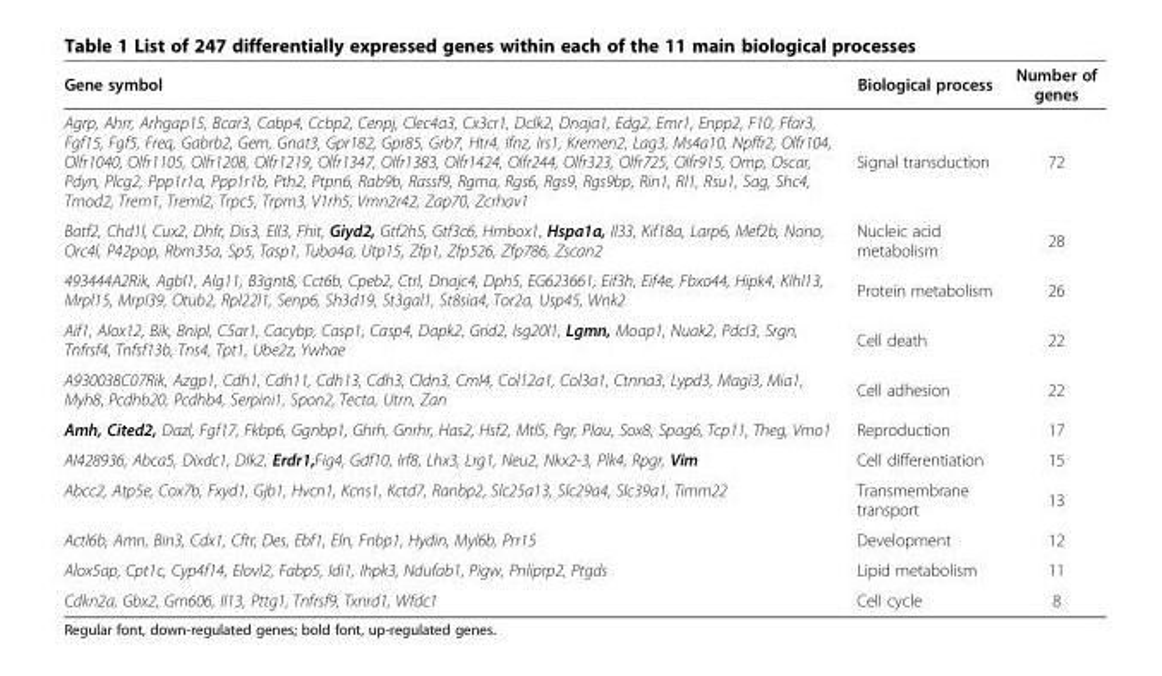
<table><thead><tr><td>Gene symbol</td><td>Biological process</td><td>Number of genes</td></tr></thead><tbody><tr><td>Agrp, Ahrr, Arhgap15, Bcar3, Cabp4, Ccbp2, Cenpj, Clec4a3, Cx3cr1, Dclk2, Dnaja1, Edg2, Emr1, Enpp2, F10, Ffar3, Fgf15, Fgf5, Freq, Gabrb2, Gem, Gnat3, Gpr182, Gpr85, Grb7, Htr4, Ifnz, Irs1, Kremen2, Lag3, Ms4a10, Npffr2, Olfr104, Olfr1040, Olfr1105, Olfr1208, Olfr1219, Olfr1347, Olfr1383, Olfr1424, Olfr244, Olfr323, Olfr725, Olfr915, Omp, Oscar, Pdyn, Plcg2, Ppp1r1a, Ppp1r1b, Pth2, Ptpn6, Rab9b, Rassf9, Rgma, Rgs6, Rgs9, Rgs9bp, Rin1, Rl1, Rsu1, Sag, Shc4, Tmod2, Trem1, Treml2, Trpc5, Trpm3, V1rh5, Vmn2r42, Zap70, Zcrhav1</td><td>Signal transduction</td><td>72</td></tr><tr><td>Batf2, Chd1l, Cux2, Dhfr, Dis3, Ell3, Fhit, Giyd2, Gtf2h5, Gtf3c6, Hmbox1, Hspa1a, Il33, Kif18a, Larp6, Mef2b, Nono, Orc4l, P42pop, Rbm35a, Sp5, Tasp1, Tuba4a, Utp15, Zfp1, Zfp526, Zfp786, Zscan2</td><td>Nucleic acid metabolism</td><td>28</td></tr><tr><td>493444A2Rik, Agbl1, Alg11, B3gnt8, Cct6b, Cpeb2, Ctrl, Dnajc4, Dph5, EG623661, Eif3h, Eif4e, Fbxo44, Hipk4, Klhl13, Mrpl15, Mrpl39, Otub2, Rpl22l1, Senp6, Sh3d19, St3gal1, St8sia4, Tor2a, Usp45, Wnk2</td><td>Protein metabolism</td><td>26</td></tr><tr><td>Aif1, Alox12, Bik, Bnipl, C5ar1, Cacybp, Casp1, Casp4, Dapk2, Grid2, Isg20l1, Lgmn, Moap1, Nuak2, Pdcl3, Srgn, Tnfrsf4, Tnfsf13b, Tns4, Tpt1, Ube2z, Ywhae</td><td>Cell death</td><td>22</td></tr><tr><td>A930038C07Rik, Azgp1, Cdh1, Cdh11, Cdh13, Cdh3, Cldn3, Cml4, Col12a1, Col3a1, Ctnna3, Lypd3, Magi3, Mia1, Myh8, Pcdhb20, Pcdhb4, Serpini1, Spon2, Tecta, Utrn, Zan</td><td>Cell adhesion</td><td>22</td></tr><tr><td>Amh, Cited2, Dazl, Fgf17, Fkbp6, Ggnbp1, Ghrh, Gnrhr, Has2, Hsf2, Mtl5, Pgr, Plau, Sox8, Spag6, Tcp11, Theg, Vmo1</td><td>Reproduction</td><td>17</td></tr><tr><td>AI428936, Abca5, Dixdc1, Dlk2, Erdr1,Fig4, Gdf10, Irf8, Lhx3, Lrg1, Neu2, Nkx2-3, Plk4, Rpgr, Vim</td><td>Cell differentiation</td><td>15</td></tr><tr><td>Abcc2, Atp5e, Cox7b, Fxyd1, Gjb1, Hvcn1, Kcns1, Kctd7, Ranbp2, Slc25a13, Slc29a4, Slc39a1, Timm22</td><td>Transmembrane transport</td><td>13</td></tr><tr><td>Actl6b, Amn, Bin3, Cdx1, Cftr, Des, Ebf1, Eln, Fnbp1, Hydin, Myl6b, Prr15</td><td>Development</td><td>12</td></tr><tr><td>Alox5ap, Cpt1c, Cyp4f14, Elovl2, Fabp5, Idi1, Ihpk3, Ndufab1, Pigw, Pnliprp2, Ptgds</td><td>Lipid metabolism</td><td>11</td></tr><tr><td>Cdkn2a, Gbx2, Gm606, Il13, Pttg1, Tnfrsf9, Txnrd1, Wfdc1</td><td>Cell cycle</td><td>8</td></tr></tbody></table>